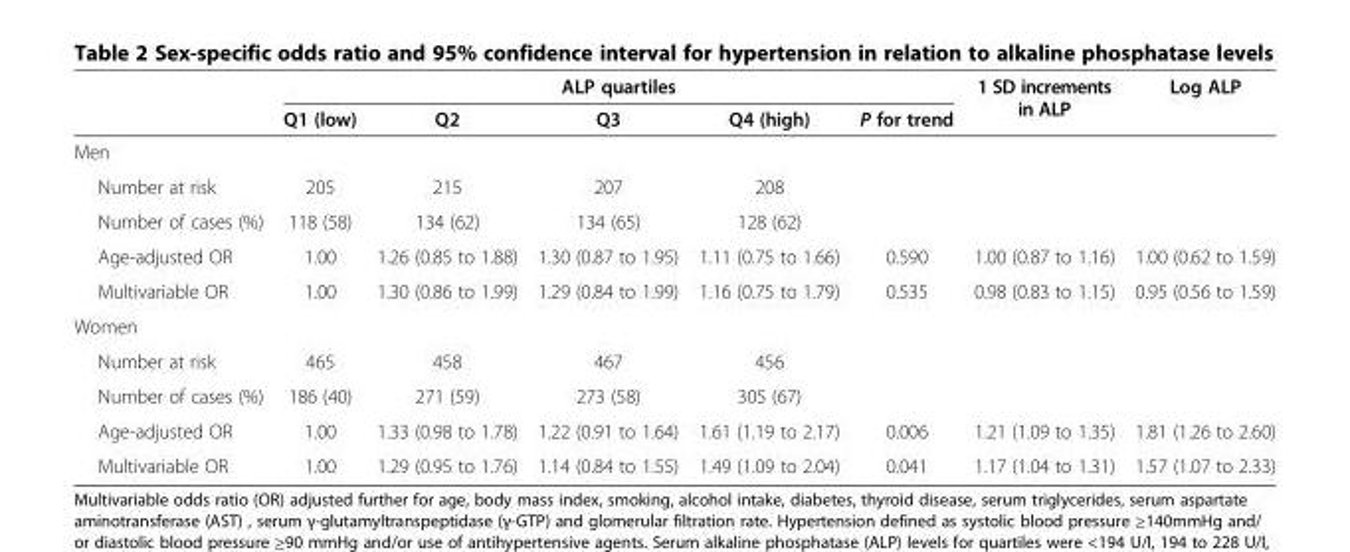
<table><thead><tr><td rowspan="2"></td><td colspan="5">ALP quartiles</td><td rowspan="2">1 SD increments in ALP</td><td rowspan="2">Log ALP</td></tr><tr><td>Q1 (low)</td><td>Q2</td><td>Q3</td><td>Q4 (high)</td><td>P for trend</td></tr></thead><tbody><tr><td colspan="8">Men</td></tr><tr><td>Number at risk</td><td>205</td><td>215</td><td>207</td><td>208</td><td></td><td></td><td></td></tr><tr><td>Number of cases (%)</td><td>118 (58)</td><td>134 (62)</td><td>134 (65)</td><td>128 (62)</td><td></td><td></td><td></td></tr><tr><td>Age-adjusted OR</td><td>1.00</td><td>1.26 (0.85 to 1.88)</td><td>1.30 (0.87 to 1.95)</td><td>1.11 (0.75 to 1.66)</td><td>0.590</td><td>1.00 (0.87 to 1.16)</td><td>1.00 (0.62 to 1.59)</td></tr><tr><td>Multivariable OR</td><td>1.00</td><td>1.30 (0.86 to 1.99)</td><td>1.29 (0.84 to 1.99)</td><td>1.16 (0.75 to 1.79)</td><td>0.535</td><td>0.98 (0.83 to 1.15)</td><td>0.95 (0.56 to 1.59)</td></tr><tr><td colspan="8">Women</td></tr><tr><td>Number at risk</td><td>465</td><td>458</td><td>467</td><td>456</td><td></td><td></td><td></td></tr><tr><td>Number of cases (%)</td><td>186 (40)</td><td>271 (59)</td><td>273 (58)</td><td>305 (67)</td><td></td><td></td><td></td></tr><tr><td>Age-adjusted OR</td><td>1.00</td><td>1.33 (0.98 to 1.78)</td><td>1.22 (0.91 to 1.64)</td><td>1.61 (1.19 to 2.17)</td><td>0.006</td><td>1.21 (1.09 to 1.35)</td><td>1.81 (1.26 to 2.60)</td></tr><tr><td>Multivariable OR</td><td>1.00</td><td>1.29 (0.95 to 1.76)</td><td>1.14 (0.84 to 1.55)</td><td>1.49 (1.09 to 2.04)</td><td>0.041</td><td>1.17 (1.04 to 1.31)</td><td>1.57 (1.07 to 2.33)</td></tr></tbody></table>